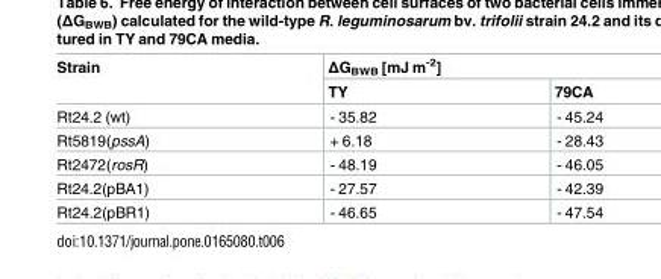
<table><thead><tr><td rowspan="2">Strain</td><td colspan="2">ΔG<sub>BWB</sub> [mJ m<sup>-2</sup>]</td></tr><tr><td>TY</td><td>79CA</td></tr></thead><tbody><tr><td>Rt24.2 (wt)</td><td>- 35.82</td><td>- 45.24</td></tr><tr><td>Rt5819(pssA)</td><td>+ 6.18</td><td>- 28.43</td></tr><tr><td>Rt2472(rosR)</td><td>- 48.19</td><td>- 46.05</td></tr><tr><td>Rt24.2(pBA1)</td><td>- 27.57</td><td>- 42.39</td></tr><tr><td>Rt24.2(pBR1)</td><td>- 46.65</td><td>- 47.54</td></tr></tbody></table>